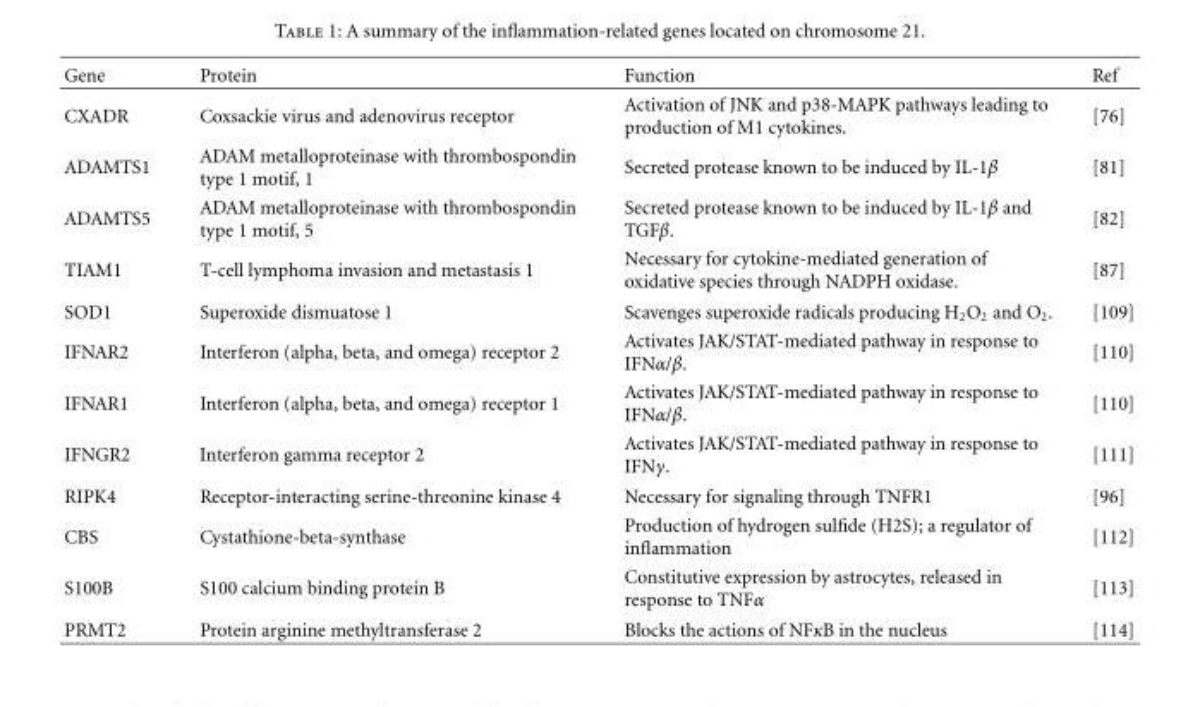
<table><thead><tr><td>Gene</td><td>Protein</td><td>Function</td><td>Ref</td></tr></thead><tbody><tr><td>CXADR</td><td>Coxsackie virus and adenovirus receptor</td><td>Activation of JNK and p38-MAPK pathways leading to production of M1 cytokines.</td><td>[76]</td></tr><tr><td>ADAMTS1</td><td>ADAM metalloproteinase with thrombospondin type 1 motif, 1</td><td>Secreted protease known to be induced by IL-1β</td><td>[81]</td></tr><tr><td>ADAMTS5</td><td>ADAM metalloproteinase with thrombospondin type 1 motif, 5</td><td>Secreted protease known to be induced by IL-1β and TGFβ.</td><td>[82]</td></tr><tr><td>TIAM1</td><td>T-cell lymphoma invasion and metastasis 1</td><td>Necessary for cytokine-mediated generation of oxidative species through NADPH oxidase.</td><td>[87]</td></tr><tr><td>SOD1</td><td>Superoxide dismuatose 1</td><td>Scavenges superoxide radicals producing H<sub>2</sub>O<sub>2</sub> and O<sub>2</sub>.</td><td>[109]</td></tr><tr><td>IFNAR2</td><td>Interferon (alpha, beta, and omega) receptor 2</td><td>Activates JAK/STAT-mediated pathway in response to IFNα/β.</td><td>[110]</td></tr><tr><td>IFNAR1</td><td>Interferon (alpha, beta, and omega) receptor 1</td><td>Activates JAK/STAT-mediated pathway in response to IFNα/β.</td><td>[110]</td></tr><tr><td>IFNGR2</td><td>Interferon gamma receptor 2</td><td>Activates JAK/STAT-mediated pathway in response to IFNγ.</td><td>[111]</td></tr><tr><td>RIPK4</td><td>Receptor-interacting serine-threonine kinase 4</td><td>Necessary for signaling through TNFR1</td><td>[96]</td></tr><tr><td>CBS</td><td>Cystathione-beta-synthase</td><td>Production of hydrogen sulfide (H2S); a regulator of inflammation</td><td>[112]</td></tr><tr><td>S100B</td><td>S100 calcium binding protein B</td><td>Constitutive expression by astrocytes, released in response to TNFα</td><td>[113]</td></tr><tr><td>PRMT2</td><td>Protein arginine methyltransferase 2</td><td>Blocks the actions of NFκB in the nucleus</td><td>[114]</td></tr></tbody></table>